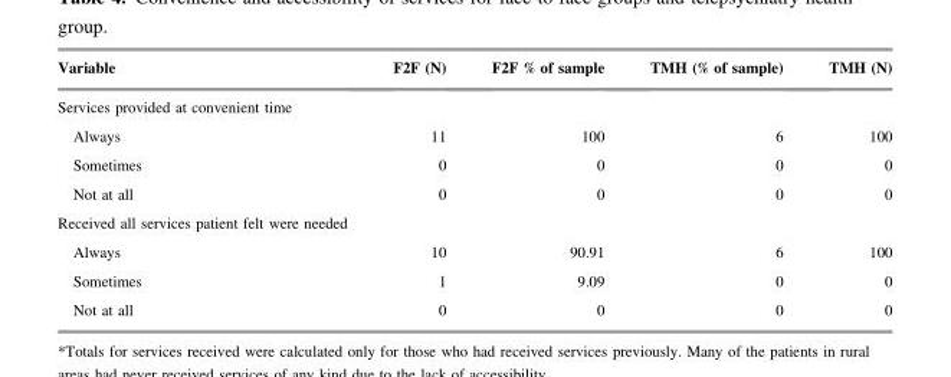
<table><thead><tr><td>Variable</td><td>F2F (N)</td><td>F2F % of sample</td><td>TMH (% of sample)</td><td>TMH (N)</td></tr></thead><tbody><tr><td colspan="5">Services provided at convenient time</td></tr><tr><td>Always</td><td>11</td><td>100</td><td>6</td><td>100</td></tr><tr><td>Sometimes</td><td>0</td><td>0</td><td>0</td><td>0</td></tr><tr><td>Not at all</td><td>0</td><td>0</td><td>0</td><td>0</td></tr><tr><td colspan="5">Received all services patient felt were needed</td></tr><tr><td>Always</td><td>10</td><td>90.91</td><td>6</td><td>100</td></tr><tr><td>Sometimes</td><td>1</td><td>9.09</td><td>0</td><td>0</td></tr><tr><td>Not at all</td><td>0</td><td>0</td><td>0</td><td>0</td></tr></tbody></table>